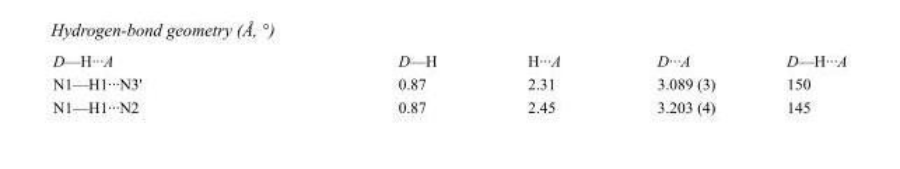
<table><tbody><tr><td>D—H···A</td><td>D—H</td><td>H···A</td><td>D···A</td><td>D—H···A</td></tr><tr><td>N1—H1···N3&#x27;</td><td>0.87</td><td>2.31</td><td>3.089 (3)</td><td>150</td></tr><tr><td>N1—H1···N2</td><td>0.87</td><td>2.45</td><td>3.203 (4)</td><td>145</td></tr></tbody></table>